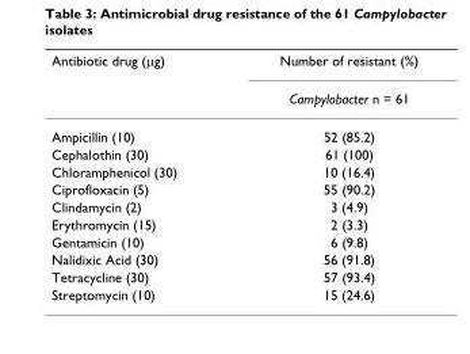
<table><thead><tr><td rowspan="2">Antibiotic drug (μg)</td><td rowspan="2">Number of resistant (%) Campylobacter n = 61</td></tr><tr></tr></thead><tbody><tr><td>Ampicillin (10)</td><td>52 (85.2)</td></tr><tr><td>Cephalothin (30)</td><td>61 (100)</td></tr><tr><td>Chloramphenicol (30)</td><td>10 (16.4)</td></tr><tr><td>Ciprofloxacin (5)</td><td>55 (90.2)</td></tr><tr><td>Clindamycin (2)</td><td>3 (4.9)</td></tr><tr><td>Erythromycin (15)</td><td>2 (3.3)</td></tr><tr><td>Gentamicin (10)</td><td>6 (9.8)</td></tr><tr><td>Nalidixic Acid (30)</td><td>56 (91.8)</td></tr><tr><td>Tetracycline (30)</td><td>57 (93.4)</td></tr><tr><td>Streptomycin (10)</td><td>15 (24.6)</td></tr></tbody></table>